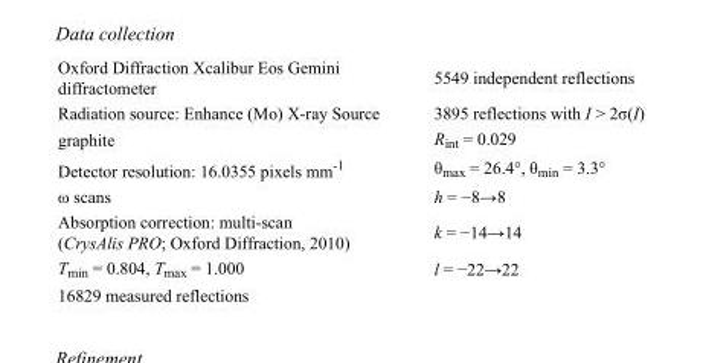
<table><tbody><tr><td>Oxford Diffraction Xcalibur Eos Gemini diffractometer</td><td>5549 independent reflections</td></tr><tr><td>Radiation source: Enhance (Mo) X-ray Source</td><td>3895 reflections with I &gt; 2σ(I)</td></tr><tr><td>graphite</td><td>R<sub>int</sub> = 0.029</td></tr><tr><td>Detector resolution: 16.0355 pixels mm<sup>-1</sup></td><td>θ<sub>max</sub> = 26.4°, θ<sub>min</sub> = 3.3°</td></tr><tr><td>ω scans</td><td>h = −8→8</td></tr><tr><td>Absorption correction: multi-scan (CrysAlis PRO; Oxford Diffraction, 2010)</td><td>k = −14→14</td></tr><tr><td>T<sub>min</sub> = 0.804, T<sub>max</sub> = 1.000</td><td>l = −22→22</td></tr><tr><td>16829 measured reflections</td><td></td></tr></tbody></table>